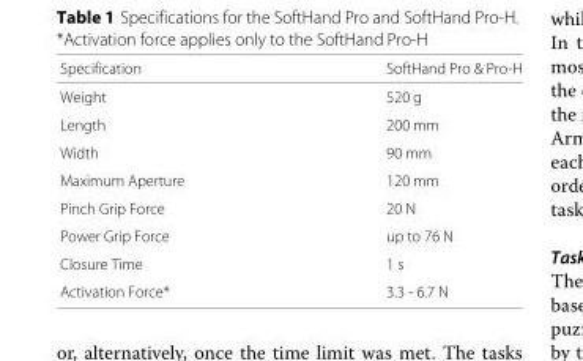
<table><thead><tr><td>Specification</td><td>SoftHand Pro &amp; Pro-H</td></tr></thead><tbody><tr><td>Weight</td><td>520 g</td></tr><tr><td>Length</td><td>200 mm</td></tr><tr><td>Width</td><td>90 mm</td></tr><tr><td>Maximum Aperture</td><td>120 mm</td></tr><tr><td>Pinch Grip Force</td><td>20 N</td></tr><tr><td>Power Grip Force</td><td>up to 76 N</td></tr><tr><td>Closure Time</td><td>1 s</td></tr><tr><td>Activation Force*</td><td>3.3 - 6.7 N</td></tr></tbody></table>